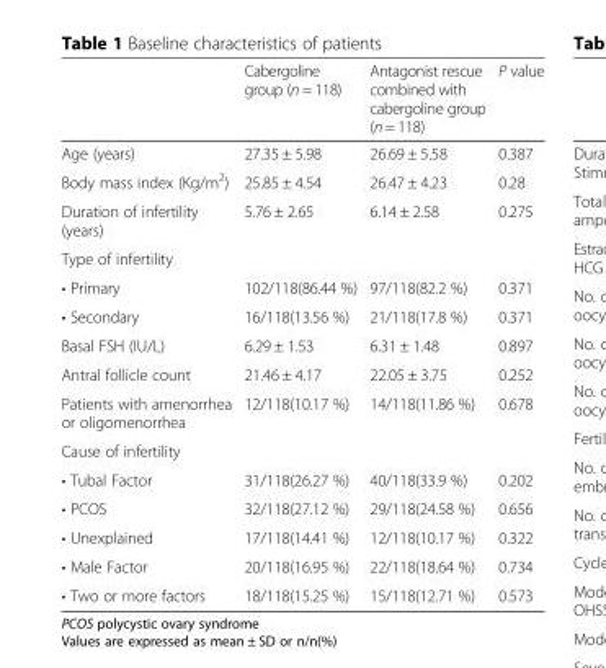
<table><thead><tr><td></td><td>Cabergoline group (n = 118)</td><td>Antagonist rescue combined with cabergoline group (n = 118)</td><td>P value</td></tr></thead><tbody><tr><td>Age (years)</td><td>27.35 ± 5.98</td><td>26.69 ± 5.58</td><td>0.387</td></tr><tr><td>Body mass index (Kg/m<sup>2</sup>)</td><td>25.85 ± 4.54</td><td>26.47 ± 4.23</td><td>0.28</td></tr><tr><td>Duration of infertility (years)</td><td>5.76 ± 2.65</td><td>6.14 ± 2.58</td><td>0.275</td></tr><tr><td colspan="4">Type of infertility</td></tr><tr><td>• Primary</td><td>102/118(86.44 %)</td><td>97/118(82.2 %)</td><td>0.371</td></tr><tr><td>• Secondary</td><td>16/118(13.56 %)</td><td>21/118(17.8 %)</td><td>0.371</td></tr><tr><td>Basal FSH (IU/L)</td><td>6.29 ± 1.53</td><td>6.31 ± 1.48</td><td>0.897</td></tr><tr><td>Antral follicle count</td><td>21.46 ± 4.17</td><td>22.05 ± 3.75</td><td>0.252</td></tr><tr><td>Patients with amenorrhea or oligomenorrhea</td><td>12/118(10.17 %)</td><td>14/118(11.86 %)</td><td>0.678</td></tr><tr><td colspan="4">Cause of infertility</td></tr><tr><td>• Tubal Factor</td><td>31/118(26.27 %)</td><td>40/118(33.9 %)</td><td>0.202</td></tr><tr><td>• PCOS</td><td>32/118(27.12 %)</td><td>29/118(24.58 %)</td><td>0.656</td></tr><tr><td>• Unexplained</td><td>17/118(14.41 %)</td><td>12/118(10.17 %)</td><td>0.322</td></tr><tr><td>• Male Factor</td><td>20/118(16.95 %)</td><td>22/118(18.64 %)</td><td>0.734</td></tr><tr><td>• Two or more factors</td><td>18/118(15.25 %)</td><td>15/118(12.71 %)</td><td>0.573</td></tr></tbody></table>